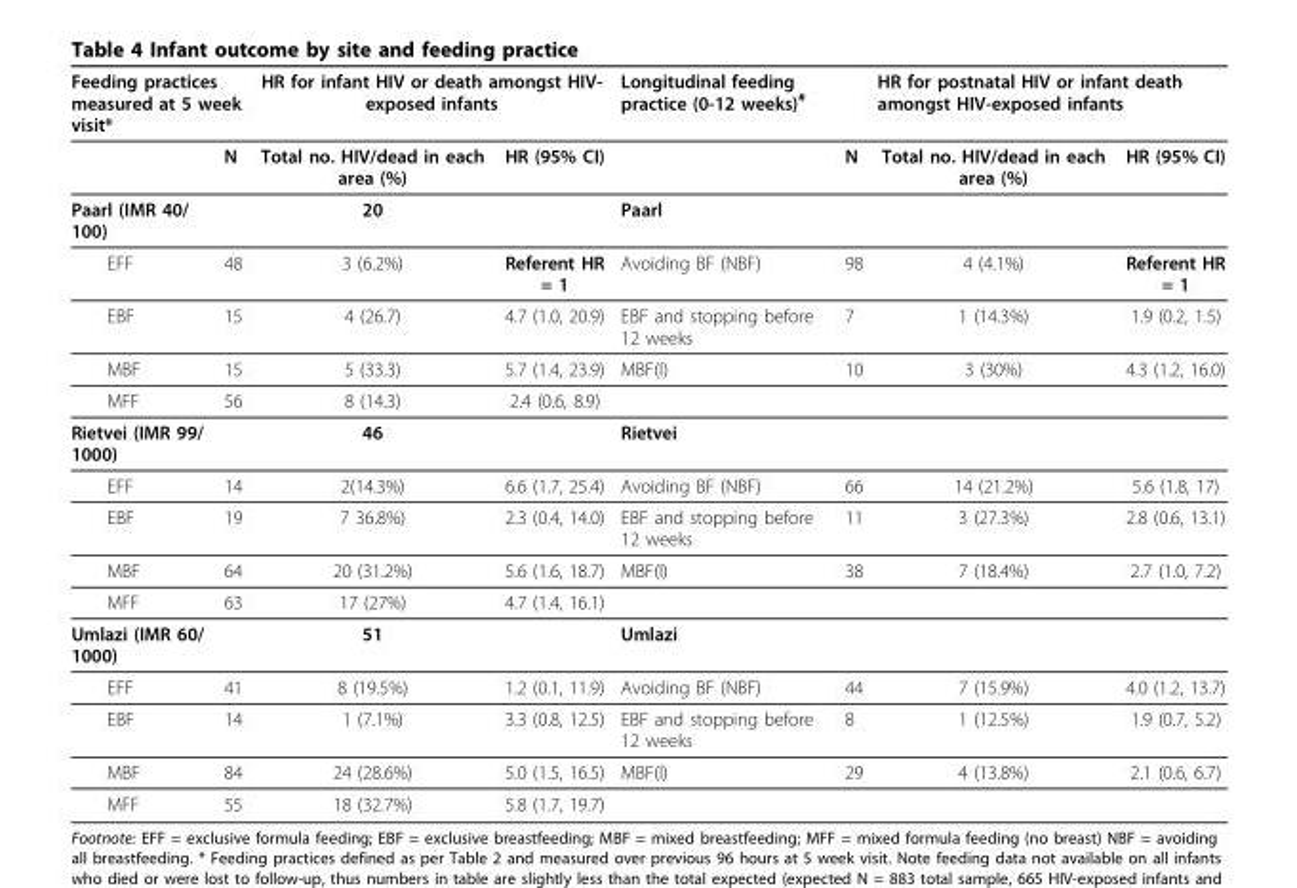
<table><thead><tr><td colspan="2">Feeding practices measured at 5 week visit*</td><td colspan="2">HR for infant HIV or death amongst HIV- exposed infants</td><td colspan="2">Longitudinal feeding practice (0-12 weeks)<sup>#</sup></td><td colspan="2">HR for postnatal HIV or infant death amongst HIV-exposed infants</td></tr><tr><td></td><td>N</td><td>Total no. HIV/dead in each area (%)</td><td>HR (95% CI)</td><td></td><td>N</td><td>Total no. HIV/dead in each area (%)</td><td>HR (95% CI)</td></tr></thead><tbody><tr><td>Paarl (IMR 40/ 100)</td><td></td><td>20</td><td></td><td>Paarl</td><td></td><td></td><td></td></tr><tr><td>EFF</td><td>48</td><td>3 (6.2%)</td><td>Referent HR = 1</td><td>Avoiding BF (NBF)</td><td>98</td><td>4 (4.1%)</td><td>Referent HR = 1</td></tr><tr><td>EBF</td><td>15</td><td>4 (26.7)</td><td>4.7 (1.0, 20.9)</td><td>EBF and stopping before 12 weeks</td><td>7</td><td>1 (14.3%)</td><td>1.9 (0.2, 1.5)</td></tr><tr><td>MBF</td><td>15</td><td>5 (33.3)</td><td>5.7 (1.4, 23.9)</td><td>MBF(l)</td><td>10</td><td>3 (30%)</td><td>4.3 (1.2, 16.0)</td></tr><tr><td>MFF</td><td>56</td><td>8 (14.3)</td><td>2.4 (0.6, 8.9)</td><td></td><td></td><td></td><td></td></tr><tr><td>Rietvei (IMR 99/ 1000)</td><td></td><td>46</td><td></td><td>Rietvei</td><td></td><td></td><td></td></tr><tr><td>EFF</td><td>14</td><td>2(14.3%)</td><td>6.6 (1.7, 25.4)</td><td>Avoiding BF (NBF)</td><td>66</td><td>14 (21.2%)</td><td>5.6 (1.8, 17)</td></tr><tr><td>EBF</td><td>19</td><td>7 36.8%)</td><td>2.3 (0.4, 14.0)</td><td>EBF and stopping before 12 weeks</td><td>11</td><td>3 (27.3%)</td><td>2.8 (0.6, 13.1)</td></tr><tr><td>MBF</td><td>64</td><td>20 (31.2%)</td><td>5.6 (1.6, 18.7)</td><td>MBF(l)</td><td>38</td><td>7 (18.4%)</td><td>2.7 (1.0, 7.2)</td></tr><tr><td>MFF</td><td>63</td><td>17 (27%)</td><td>4.7 (1.4, 16.1)</td><td></td><td></td><td></td><td></td></tr><tr><td>Umlazi (IMR 60/ 1000)</td><td></td><td>51</td><td></td><td>Umlazi</td><td></td><td></td><td></td></tr><tr><td>EFF</td><td>41</td><td>8 (19.5%)</td><td>1.2 (0.1, 11.9)</td><td>Avoiding BF (NBF)</td><td>44</td><td>7 (15.9%)</td><td>4.0 (1.2, 13.7)</td></tr><tr><td>EBF</td><td>14</td><td>1 (7.1%)</td><td>3.3 (0.8, 12.5)</td><td>EBF and stopping before 12 weeks</td><td>8</td><td>1 (12.5%)</td><td>1.9 (0.7, 5.2)</td></tr><tr><td>MBF</td><td>84</td><td>24 (28.6%)</td><td>5.0 (1.5, 16.5)</td><td>MBF(l)</td><td>29</td><td>4 (13.8%)</td><td>2.1 (0.6, 6.7)</td></tr><tr><td>MFF</td><td>55</td><td>18 (32.7%)</td><td>5.8 (1.7, 19.7)</td><td colspan="4"></td></tr></tbody></table>